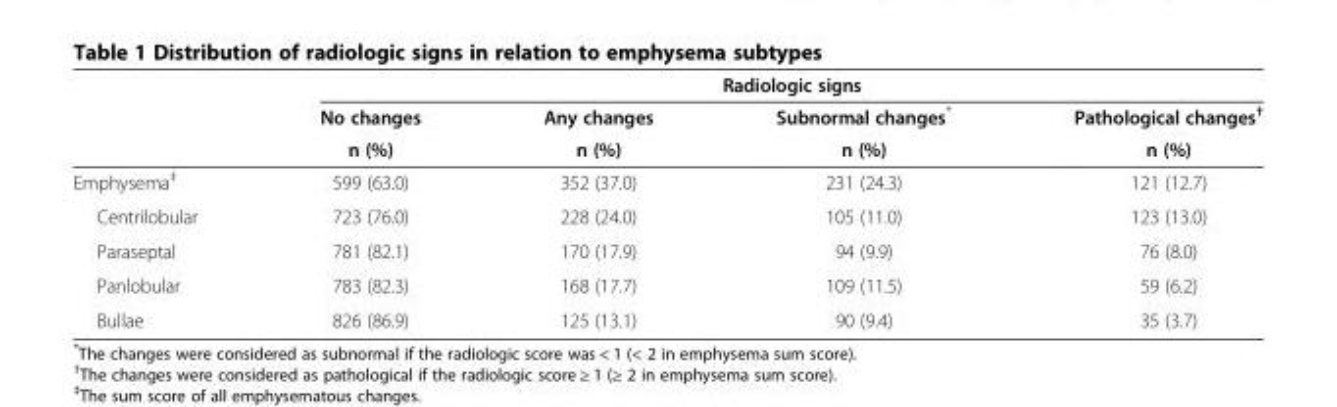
<table><thead><tr><td rowspan="3"></td><td colspan="4">Radiologic signs</td></tr><tr><td rowspan="2">No changes n (%)</td><td rowspan="2">Any changes n (%)</td><td rowspan="2">Subnormal changes* n (%)</td><td rowspan="2">Pathological changes<sup>†</sup> n (%)</td></tr><tr></tr></thead><tbody><tr><td>Emphysema<sup>‡</sup></td><td>599 (63.0)</td><td>352 (37.0)</td><td>231 (24.3)</td><td>121 (12.7)</td></tr><tr><td>Centrilobular</td><td>723 (76.0)</td><td>228 (24.0)</td><td>105 (11.0)</td><td>123 (13.0)</td></tr><tr><td>Paraseptal</td><td>781 (82.1)</td><td>170 (17.9)</td><td>94 (9.9)</td><td>76 (8.0)</td></tr><tr><td>Panlobular</td><td>783 (82.3)</td><td>168 (17.7)</td><td>109 (11.5)</td><td>59 (6.2)</td></tr><tr><td>Bullae</td><td>826 (86.9)</td><td>125 (13.1)</td><td>90 (9.4)</td><td>35 (3.7)</td></tr></tbody></table>